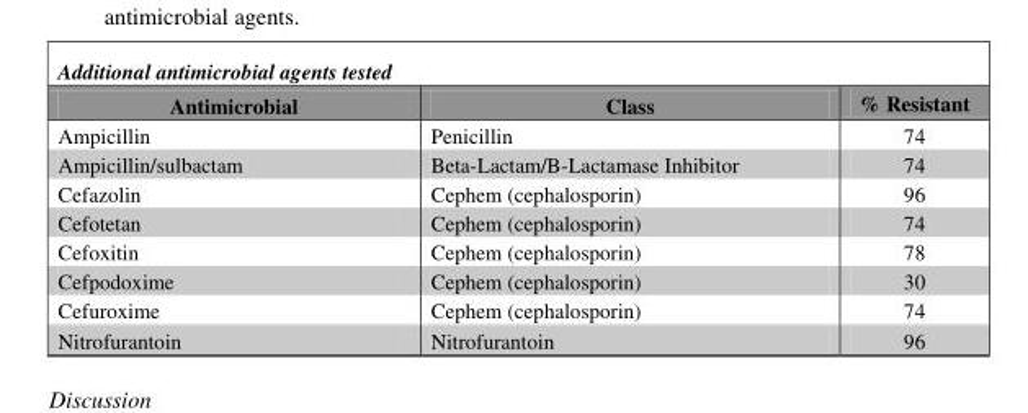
<table><thead><tr><td rowspan="2">Additional antimicrobial agents tested Antimicrobial</td><td rowspan="2">Class</td><td rowspan="2">% Resistant</td></tr><tr></tr></thead><tbody><tr><td>Ampicillin</td><td>Penicillin</td><td>74</td></tr><tr><td>Ampicillin/sulbactam</td><td>Beta-Lactam/B-Lactamase Inhibitor</td><td>74</td></tr><tr><td>Cefazolin</td><td>Cephem (cephalosporin)</td><td>96</td></tr><tr><td>Cefotetan</td><td>Cephem (cephalosporin)</td><td>74</td></tr><tr><td>Cefoxitin</td><td>Cephem (cephalosporin)</td><td>78</td></tr><tr><td>Cefpodoxime</td><td>Cephem (cephalosporin)</td><td>30</td></tr><tr><td>Cefuroxime</td><td>Cephem (cephalosporin)</td><td>74</td></tr><tr><td>Nitrofurantoin</td><td>Nitrofurantoin</td><td>96</td></tr></tbody></table>